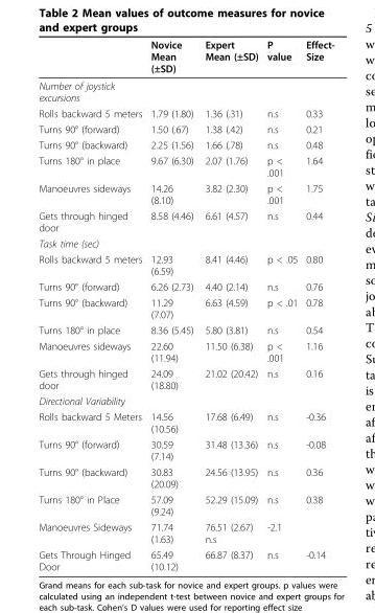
<table><thead><tr><td></td><td>Novice Mean (±SD)</td><td>Expert Mean (±SD)</td><td>P value</td><td>Effect- Size</td></tr></thead><tbody><tr><td colspan="5">Number of joystick excursions</td></tr><tr><td>Rolls backward 5 meters</td><td>1.79 (1.80)</td><td>1.36 (.31)</td><td>n.s</td><td>0.33</td></tr><tr><td>Turns 90° (forward)</td><td>1.50 (.67)</td><td>1.38 (.42)</td><td>n.s</td><td>0.21</td></tr><tr><td>Turns 90° (backward)</td><td>2.25 (1.56)</td><td>1.66 (.78)</td><td>n.s</td><td>0.48</td></tr><tr><td>Turns 180° in place</td><td>9.67 (6.30)</td><td>2.07 (1.76)</td><td>p &lt; .001</td><td>1.64</td></tr><tr><td>Manoeuvres sideways</td><td>14.26 (8.10)</td><td>3.82 (2.30)</td><td>p &lt; .001</td><td>1.75</td></tr><tr><td>Gets through hinged door</td><td>8.58 (4.46)</td><td>6.61 (4.57)</td><td>n.s</td><td>0.44</td></tr><tr><td colspan="5">Task time (sec)</td></tr><tr><td>Rolls backward 5 meters</td><td>12.93 (6.59)</td><td>8.41 (4.46)</td><td>p &lt; .05</td><td>0.80</td></tr><tr><td>Turns 90° (forward)</td><td>6.26 (2.73)</td><td>4.40 (2.14)</td><td>n.s</td><td>0.76</td></tr><tr><td>Turns 90° (backward)</td><td>11.29 (7.07)</td><td>6.63 (4.59)</td><td>p &lt; .01</td><td>0.78</td></tr><tr><td>Turns 180° in place</td><td>8.36 (5.45)</td><td>5.80 (3.81)</td><td>n.s</td><td>0.54</td></tr><tr><td>Manoeuvres sideways</td><td>22.60 (11.94)</td><td>11.50 (6.38)</td><td>p &lt; .001</td><td>1.16</td></tr><tr><td>Gets through hinged door</td><td>24.09 (18.80)</td><td>21.02 (20.42)</td><td>n.s</td><td>0.16</td></tr><tr><td colspan="5">Directional Variability</td></tr><tr><td>Rolls backward 5 Meters</td><td>14.56 (10.56)</td><td>17.68 (6.49)</td><td>n.s</td><td>-0.36</td></tr><tr><td>Turns 90° (forward)</td><td>30.59 (7.14)</td><td>31.48 (13.36)</td><td>n.s</td><td>-0.08</td></tr><tr><td>Turns 90° (backward)</td><td>30.83 (20.09)</td><td>24.56 (13.95)</td><td>n.s</td><td>0.36</td></tr><tr><td>Turns 180° in Place</td><td>57.09 (9.24)</td><td>52.29 (15.09)</td><td>n.s</td><td>0.38</td></tr><tr><td>Manoeuvres Sideways</td><td>71.74 (1.63)</td><td>76.51 (2.67) n.s</td><td>-2.1</td><td></td></tr><tr><td>Gets Through Hinged Door</td><td>65.49 (10.12)</td><td>66.87 (8.37)</td><td>n.s</td><td>-0.14</td></tr></tbody></table>